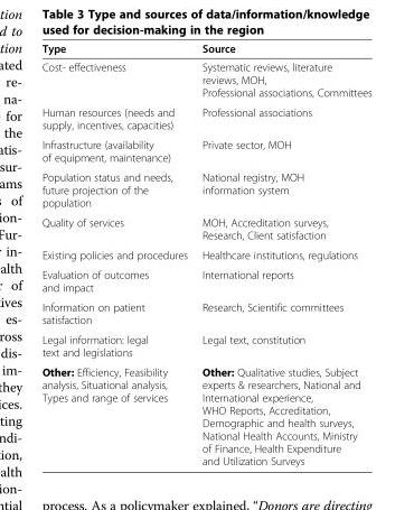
<table><thead><tr><td>Type</td><td>Source</td></tr></thead><tbody><tr><td>Cost- effectiveness</td><td>Systematic reviews, literature reviews, MOH, Professional associations, Committees</td></tr><tr><td>Human resources (needs and supply, incentives, capacities)</td><td>Professional associations</td></tr><tr><td>Infrastructure (availability of equipment, maintenance)</td><td>Private sector, MOH</td></tr><tr><td>Population status and needs, future projection of the population</td><td>National registry, MOH information system</td></tr><tr><td>Quality of services</td><td>MOH, Accreditation surveys, Research, Client satisfaction</td></tr><tr><td>Existing policies and procedures</td><td>Healthcare institutions, regulations</td></tr><tr><td>Evaluation of outcomes and impact</td><td>International reports</td></tr><tr><td>Information on patient satisfaction</td><td>Research, Scientific committees</td></tr><tr><td>Legal information: legal text and legislations</td><td>Legal text, constitution</td></tr><tr><td>Other: Efficiency, Feasibility analysis, Situational analysis, Types and range of services</td><td>Other: Qualitative studies, Subject experts &amp; researchers, National and International experience, WHO Reports, Accreditation, Demographic and health surveys, National Health Accounts, Ministry of Finance, Health Expenditure and Utilization Surveys</td></tr></tbody></table>